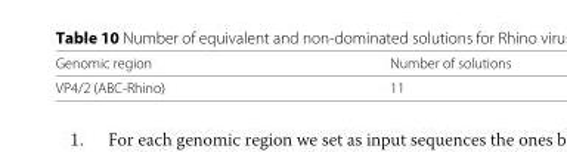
<table><thead><tr><td>Genomic region</td><td>Number of solutions</td></tr></thead><tbody><tr><td>VP4/2 (ABC-Rhino)</td><td>11</td></tr></tbody></table>